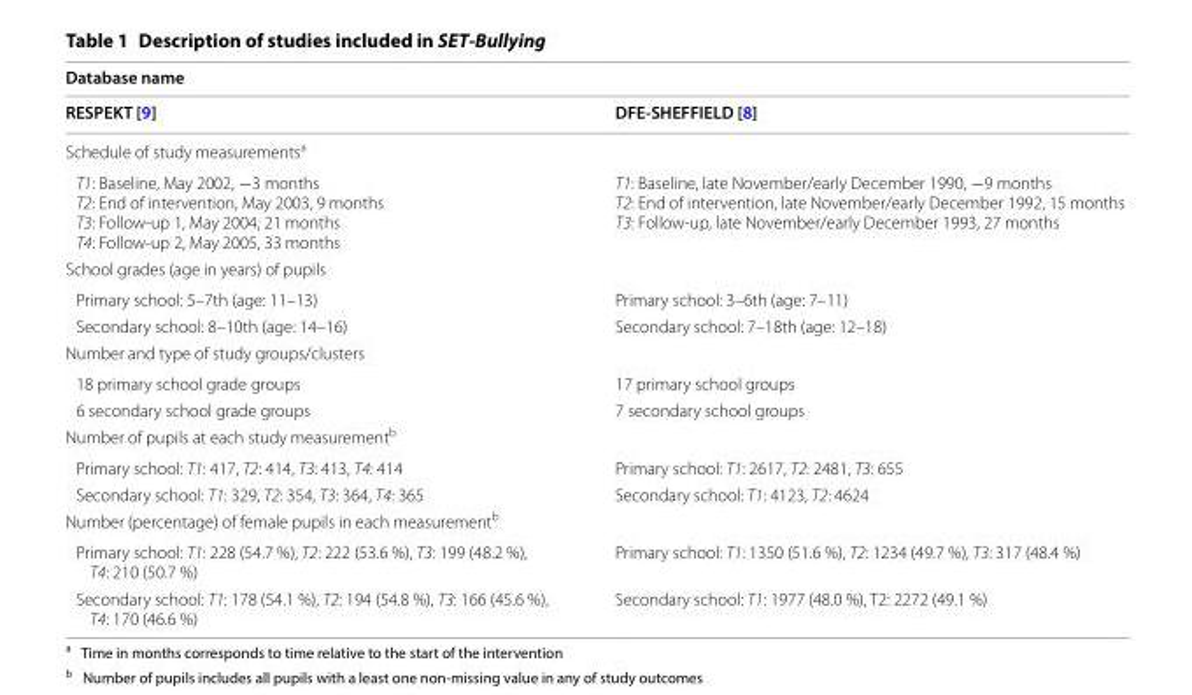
<table><thead><tr><td colspan="2">Database name</td></tr><tr><td>RESPEKT [9]</td><td>DFE‑SHEFFIELD [8]</td></tr></thead><tbody><tr><td colspan="2">Schedule of study measurements<sup>a</sup></td></tr><tr><td>T1: Baseline, May 2002, −3 months T2: End of intervention, May 2003, 9 months T3: Follow‑up 1, May 2004, 21 months T4: Follow‑up 2, May 2005, 33 months</td><td>T1: Baseline, late November/early December 1990, −9 months T2: End of intervention, late November/early December 1992, 15 months T3: Follow‑up, late November/early December 1993, 27 months</td></tr><tr><td colspan="2">School grades (age in years) of pupils</td></tr><tr><td>Primary school: 5–7th (age: 11–13)</td><td>Primary school: 3–6th (age: 7–11)</td></tr><tr><td>Secondary school: 8–10th (age: 14–16)</td><td>Secondary school: 7–18th (age: 12–18)</td></tr><tr><td colspan="2">Number and type of study groups/clusters</td></tr><tr><td>18 primary school grade groups</td><td>17 primary school groups</td></tr><tr><td>6 secondary school grade groups</td><td>7 secondary school groups</td></tr><tr><td colspan="2">Number of pupils at each study measurement<sup>b</sup></td></tr><tr><td>Primary school: T1: 417, T2: 414, T3: 413, T4: 414</td><td>Primary school: T1: 2617, T2: 2481, T3: 655</td></tr><tr><td>Secondary school: T1: 329, T2: 354, T3: 364, T4: 365</td><td>Secondary school: T1: 4123, T2: 4624</td></tr><tr><td colspan="2">Number (percentage) of female pupils in each measurement<sup>b</sup></td></tr><tr><td>Primary school: T1: 228 (54.7 %), T2: 222 (53.6 %), T3: 199 (48.2 %), T4: 210 (50.7 %)</td><td>Primary school: T1: 1350 (51.6 %), T2: 1234 (49.7 %), T3: 317 (48.4 %)</td></tr><tr><td>Secondary school: T1: 178 (54.1 %), T2: 194 (54.8 %), T3: 166 (45.6 %), T4: 170 (46.6 %)</td><td>Secondary school: T1: 1977 (48.0 %), T2: 2272 (49.1 %)</td></tr></tbody></table>